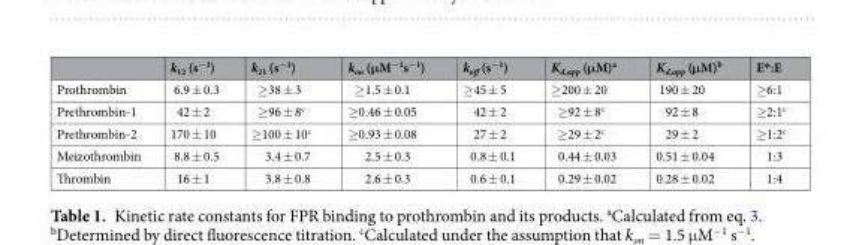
<table><thead><tr><td></td><td>k<sub>12</sub> (s<sup>−1</sup>)</td><td>k<sub>21</sub> (s<sup>−1</sup>)</td><td>k<sub>on</sub> (μM<sup>−1</sup>s<sup>−1</sup>)</td><td>k<sub>off</sub> (s<sup>−1</sup>)</td><td>K<sub>d,app</sub> (μM)<sup>a</sup></td><td>K<sub>d,app</sub> (μM)<sup>b</sup></td><td>E*:E</td></tr></thead><tbody><tr><td>Prothrombin</td><td>6.9 ± 0.3</td><td>≥38 ± 3</td><td>≥1.5 ± 0.1</td><td>≥45 ± 5</td><td>≥200 ± 20</td><td>190 ± 20</td><td>≥6:1</td></tr><tr><td>Prethrombin-1</td><td>42 ± 2</td><td>≥96 ± 8<sup>c</sup></td><td>≥0.46 ± 0.05</td><td>42 ± 2</td><td>≥92 ± 8<sup>c</sup></td><td>92 ± 8</td><td>≥2:1<sup>c</sup></td></tr><tr><td>Prethrombin-2</td><td>170 ± 10</td><td>≥100 ± 10<sup>c</sup></td><td>≥0.93 ± 0.08</td><td>27 ± 2</td><td>≥29 ± 2<sup>c</sup></td><td>29 ± 2</td><td>≥1:2<sup>c</sup></td></tr><tr><td>Meizothrombin</td><td>8.8 ± 0.5</td><td>3.4 ± 0.7</td><td>2.5 ± 0.3</td><td>0.8 ± 0.1</td><td>0.44 ± 0.03</td><td>0.51 ± 0.04</td><td>1:3</td></tr><tr><td>Thrombin</td><td>16 ± 1</td><td>3.8 ± 0.8</td><td>2.6 ± 0.3</td><td>0.6 ± 0.1</td><td>0.29 ± 0.02</td><td>0.28 ± 0.02</td><td>1:4</td></tr></tbody></table>